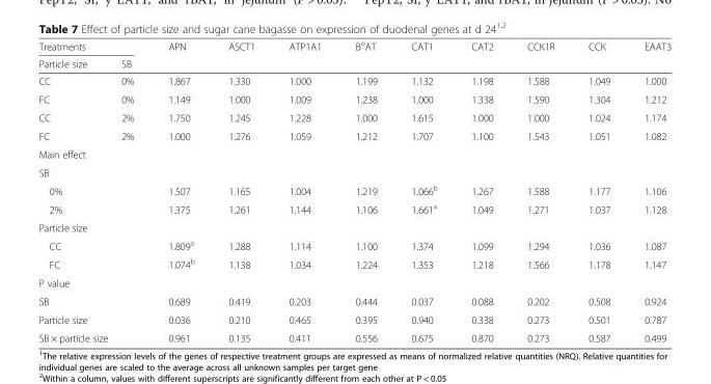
<table><thead><tr><td colspan="2">Treatments</td><td rowspan="2">APN</td><td rowspan="2">ASCT1</td><td rowspan="2">ATP1A1</td><td rowspan="2">B<sup>o</sup>AT</td><td rowspan="2">CAT1</td><td rowspan="2">CAT2</td><td rowspan="2">CCK1R</td><td rowspan="2">CCK</td><td rowspan="2">EAAT3</td></tr><tr><td>Particle size</td><td>SB</td></tr></thead><tbody><tr><td>CC</td><td>0%</td><td>1.867</td><td>1.330</td><td>1.000</td><td>1.199</td><td>1.132</td><td>1.198</td><td>1.588</td><td>1.049</td><td>1.000</td></tr><tr><td>FC</td><td>0%</td><td>1.149</td><td>1.000</td><td>1.009</td><td>1.238</td><td>1.000</td><td>1.338</td><td>1.590</td><td>1.304</td><td>1.212</td></tr><tr><td>CC</td><td>2%</td><td>1.750</td><td>1.245</td><td>1.228</td><td>1.000</td><td>1.615</td><td>1.000</td><td>1.000</td><td>1.024</td><td>1.174</td></tr><tr><td>FC</td><td>2%</td><td>1.000</td><td>1.276</td><td>1.059</td><td>1.212</td><td>1.707</td><td>1.100</td><td>1.543</td><td>1.051</td><td>1.082</td></tr><tr><td colspan="11">Main effect</td></tr><tr><td colspan="11">SB</td></tr><tr><td colspan="2">0%</td><td>1.507</td><td>1.165</td><td>1.004</td><td>1.219</td><td>1.066<sup>b</sup></td><td>1.267</td><td>1.588</td><td>1.177</td><td>1.106</td></tr><tr><td colspan="2">2%</td><td>1.375</td><td>1.261</td><td>1.144</td><td>1.106</td><td>1.661<sup>a</sup></td><td>1.049</td><td>1.271</td><td>1.037</td><td>1.128</td></tr><tr><td colspan="11">Particle size</td></tr><tr><td colspan="2">CC</td><td>1.809<sup>a</sup></td><td>1.288</td><td>1.114</td><td>1.100</td><td>1.374</td><td>1.099</td><td>1.294</td><td>1.036</td><td>1.087</td></tr><tr><td colspan="2">FC</td><td>1.074<sup>b</sup></td><td>1.138</td><td>1.034</td><td>1.224</td><td>1.353</td><td>1.218</td><td>1.566</td><td>1.178</td><td>1.147</td></tr><tr><td colspan="11">P value</td></tr><tr><td colspan="2">SB</td><td>0.689</td><td>0.419</td><td>0.203</td><td>0.444</td><td>0.037</td><td>0.088</td><td>0.202</td><td>0.508</td><td>0.924</td></tr><tr><td colspan="2">Particle size</td><td>0.036</td><td>0.210</td><td>0.465</td><td>0.395</td><td>0.940</td><td>0.338</td><td>0.273</td><td>0.501</td><td>0.787</td></tr><tr><td colspan="2">SB × particle size</td><td>0.961</td><td>0.135</td><td>0.411</td><td>0.556</td><td>0.675</td><td>0.870</td><td>0.273</td><td>0.587</td><td>0.499</td></tr></tbody></table>